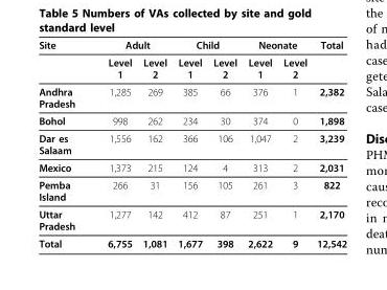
<table><thead><tr><td rowspan="2">Site</td><td colspan="2">Adult</td><td colspan="2">Child</td><td colspan="2">Neonate</td><td rowspan="2">Total</td></tr><tr><td>Level 1</td><td>Level 2</td><td>Level 1</td><td>Level 2</td><td>Level 1</td><td>Level 2</td></tr></thead><tbody><tr><td>Andhra Pradesh</td><td>1,285</td><td>269</td><td>385</td><td>66</td><td>376</td><td>1</td><td>2,382</td></tr><tr><td>Bohol</td><td>998</td><td>262</td><td>234</td><td>30</td><td>374</td><td>0</td><td>1,898</td></tr><tr><td>Dar es Salaam</td><td>1,556</td><td>162</td><td>366</td><td>106</td><td>1,047</td><td>2</td><td>3,239</td></tr><tr><td>Mexico</td><td>1,373</td><td>215</td><td>124</td><td>4</td><td>313</td><td>2</td><td>2,031</td></tr><tr><td>Pemba Island</td><td>266</td><td>31</td><td>156</td><td>105</td><td>261</td><td>3</td><td>822</td></tr><tr><td>Uttar Pradesh</td><td>1,277</td><td>142</td><td>412</td><td>87</td><td>251</td><td>1</td><td>2,170</td></tr><tr><td>Total</td><td>6,755</td><td>1,081</td><td>1,677</td><td>398</td><td>2,622</td><td>9</td><td>12,542</td></tr></tbody></table>